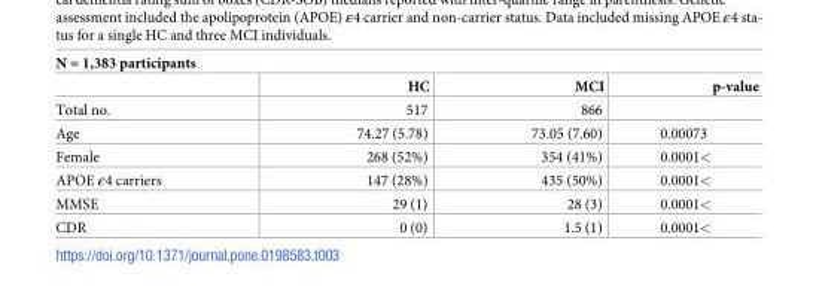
<table><thead><tr><td colspan="4">N = 1,383 participants</td></tr><tr><td></td><td>HC</td><td>MCI</td><td>p-value</td></tr></thead><tbody><tr><td>Total no.</td><td>517</td><td>866</td><td></td></tr><tr><td>Age</td><td>74.27 (5.78)</td><td>73.05 (7.60)</td><td>0.00073</td></tr><tr><td>Female</td><td>268 (52%)</td><td>354 (41%)</td><td>0.0001&lt;</td></tr><tr><td>APOE ε4 carriers</td><td>147 (28%)</td><td>435 (50%)</td><td>0.0001&lt;</td></tr><tr><td>MMSE</td><td>29 (1)</td><td>28 (3)</td><td>0.0001&lt;</td></tr><tr><td>CDR</td><td>0 (0)</td><td>1.5 (1)</td><td>0.0001&lt;</td></tr></tbody></table>